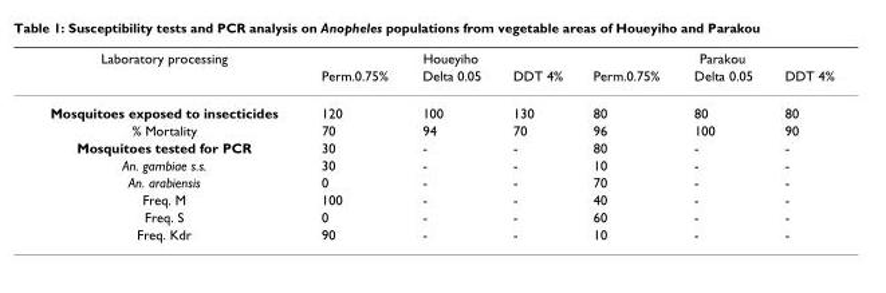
<table><thead><tr><td rowspan="2">Laboratory processing</td><td colspan="3">Houeyiho</td><td colspan="3">Parakou</td></tr><tr><td>Perm.0.75%</td><td>Delta 0.05</td><td>DDT 4%</td><td>Perm.0.75%</td><td>Delta 0.05</td><td>DDT 4%</td></tr></thead><tbody><tr><td>Mosquitoes exposed to insecticides</td><td>120</td><td>100</td><td>130</td><td>80</td><td>80</td><td>80</td></tr><tr><td>% Mortality</td><td>70</td><td>94</td><td>70</td><td>96</td><td>100</td><td>90</td></tr><tr><td>Mosquitoes tested for PCR</td><td>30</td><td>-</td><td>-</td><td>80</td><td>-</td><td>-</td></tr><tr><td>An. gambiae s.s.</td><td>30</td><td>-</td><td>-</td><td>10</td><td>-</td><td>-</td></tr><tr><td>An. arabiensis</td><td>0</td><td>-</td><td>-</td><td>70</td><td>-</td><td>-</td></tr><tr><td>Freq. M</td><td>100</td><td>-</td><td>-</td><td>40</td><td>-</td><td>-</td></tr><tr><td>Freq. S</td><td>0</td><td>-</td><td>-</td><td>60</td><td>-</td><td>-</td></tr><tr><td>Freq. Kdr</td><td>90</td><td>-</td><td>-</td><td>10</td><td>-</td><td>-</td></tr></tbody></table>